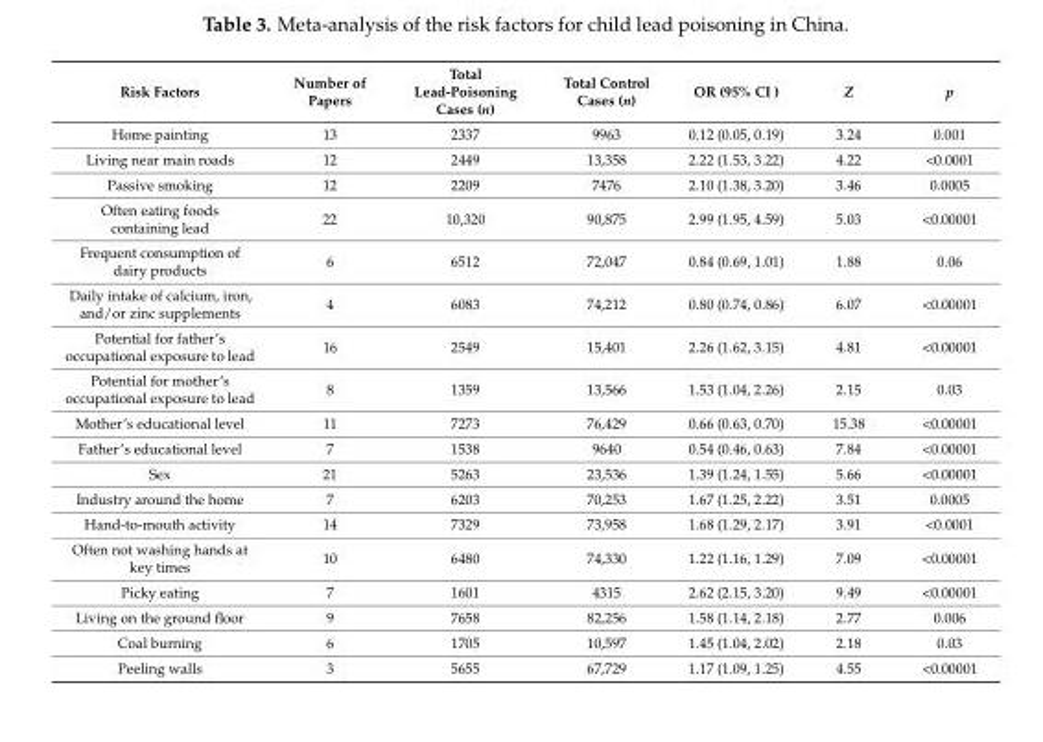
<table><thead><tr><td>Risk Factors</td><td>Number of Papers</td><td>Total Lead-Poisoning Cases (n)</td><td>Total Control Cases (n)</td><td>OR (95% CI )</td><td>Z</td><td>p</td></tr></thead><tbody><tr><td>Home painting</td><td>13</td><td>2337</td><td>9963</td><td>0.12 (0.05, 0.19)</td><td>3.24</td><td>0.001</td></tr><tr><td>Living near main roads</td><td>12</td><td>2449</td><td>13,358</td><td>2.22 (1.53, 3.22)</td><td>4.22</td><td>&lt;0.0001</td></tr><tr><td>Passive smoking</td><td>12</td><td>2209</td><td>7476</td><td>2.10 (1.38, 3.20)</td><td>3.46</td><td>0.0005</td></tr><tr><td>Often eating foods containing lead</td><td>22</td><td>10,320</td><td>90,875</td><td>2.99 (1.95, 4.59)</td><td>5.03</td><td>&lt;0.00001</td></tr><tr><td>Frequent consumption of dairy products</td><td>6</td><td>6512</td><td>72,047</td><td>0.84 (0.69, 1.01)</td><td>1.88</td><td>0.06</td></tr><tr><td>Daily intake of calcium, iron, and/or zinc supplements</td><td>4</td><td>6083</td><td>74,212</td><td>0.80 (0.74, 0.86)</td><td>6.07</td><td>&lt;0.00001</td></tr><tr><td>Potential for father’s occupational exposure to lead</td><td>16</td><td>2549</td><td>15,401</td><td>2.26 (1.62, 3.15)</td><td>4.81</td><td>&lt;0.00001</td></tr><tr><td>Potential for mother’s occupational exposure to lead</td><td>8</td><td>1359</td><td>13,566</td><td>1.53 (1.04, 2.26)</td><td>2.15</td><td>0.03</td></tr><tr><td>Mother’s educational level</td><td>11</td><td>7273</td><td>76,429</td><td>0.66 (0.63, 0.70)</td><td>15.38</td><td>&lt;0.00001</td></tr><tr><td>Father’s educational level</td><td>7</td><td>1538</td><td>9640</td><td>0.54 (0.46, 0.63)</td><td>7.84</td><td>&lt;0.00001</td></tr><tr><td>Sex</td><td>21</td><td>5263</td><td>23,536</td><td>1.39 (1.24, 1.55)</td><td>5.66</td><td>&lt;0.00001</td></tr><tr><td>Industry around the home</td><td>7</td><td>6203</td><td>70,253</td><td>1.67 (1.25, 2.22)</td><td>3.51</td><td>0.0005</td></tr><tr><td>Hand-to-mouth activity</td><td>14</td><td>7329</td><td>73,958</td><td>1.68 (1.29, 2.17)</td><td>3.91</td><td>&lt;0.0001</td></tr><tr><td>Often not washing hands at key times</td><td>10</td><td>6480</td><td>74,330</td><td>1.22 (1.16, 1.29)</td><td>7.09</td><td>&lt;0.00001</td></tr><tr><td>Picky eating</td><td>7</td><td>1601</td><td>4315</td><td>2.62 (2.15, 3.20)</td><td>9.49</td><td>&lt;0.00001</td></tr><tr><td>Living on the ground floor</td><td>9</td><td>7658</td><td>82,256</td><td>1.58 (1.14, 2.18)</td><td>2.77</td><td>0.006</td></tr><tr><td>Coal burning</td><td>6</td><td>1705</td><td>10,597</td><td>1.45 (1.04, 2.02)</td><td>2.18</td><td>0.03</td></tr><tr><td>Peeling walls</td><td>3</td><td>5655</td><td>67,729</td><td>1.17 (1.09, 1.25)</td><td>4.55</td><td>&lt;0.00001</td></tr></tbody></table>